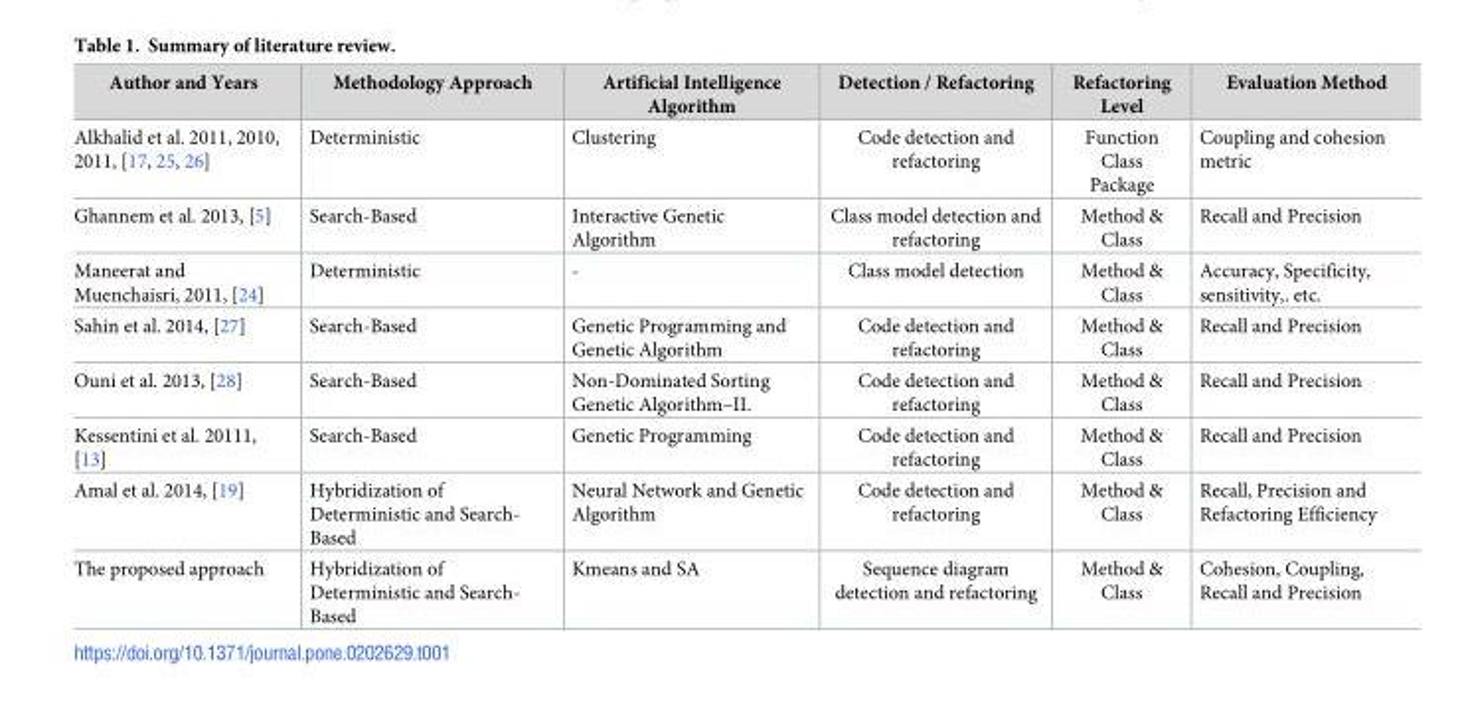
<table><thead><tr><td>Author and Years</td><td>Methodology Approach</td><td>Artificial Intelligence Algorithm</td><td>Detection / Refactoring</td><td>Refactoring Level</td><td>Evaluation Method</td></tr></thead><tbody><tr><td>Alkhalid et al. 2011, 2010, 2011, [17, 25, 26]</td><td>Deterministic</td><td>Clustering</td><td>Code detection and refactoring</td><td>Function Class Package</td><td>Coupling and cohesion metric</td></tr><tr><td>Ghannem et al. 2013, [5]</td><td>Search-Based</td><td>Interactive Genetic Algorithm</td><td>Class model detection and refactoring</td><td>Method &amp; Class</td><td>Recall and Precision</td></tr><tr><td>Maneerat and Muenchaisri, 2011, [24]</td><td>Deterministic</td><td>-</td><td>Class model detection</td><td>Method &amp; Class</td><td>Accuracy, Specificity, sensitivity,. etc.</td></tr><tr><td>Sahin et al. 2014, [27]</td><td>Search-Based</td><td>Genetic Programming and Genetic Algorithm</td><td>Code detection and refactoring</td><td>Method &amp; Class</td><td>Recall and Precision</td></tr><tr><td>Ouni et al. 2013, [28]</td><td>Search-Based</td><td>Non-Dominated Sorting Genetic Algorithm–II.</td><td>Code detection and refactoring</td><td>Method &amp; Class</td><td>Recall and Precision</td></tr><tr><td>Kessentini et al. 20111, [13]</td><td>Search-Based</td><td>Genetic Programming</td><td>Code detection and refactoring</td><td>Method &amp; Class</td><td>Recall and Precision</td></tr><tr><td>Amal et al. 2014, [19]</td><td>Hybridization of Deterministic and Search- Based</td><td>Neural Network and Genetic Algorithm</td><td>Code detection and refactoring</td><td>Method &amp; Class</td><td>Recall, Precision and Refactoring Efficiency</td></tr><tr><td>The proposed approach</td><td>Hybridization of Deterministic and Search- Based</td><td>Kmeans and SA</td><td>Sequence diagram detection and refactoring</td><td>Method &amp; Class</td><td>Cohesion, Coupling, Recall and Precision</td></tr></tbody></table>